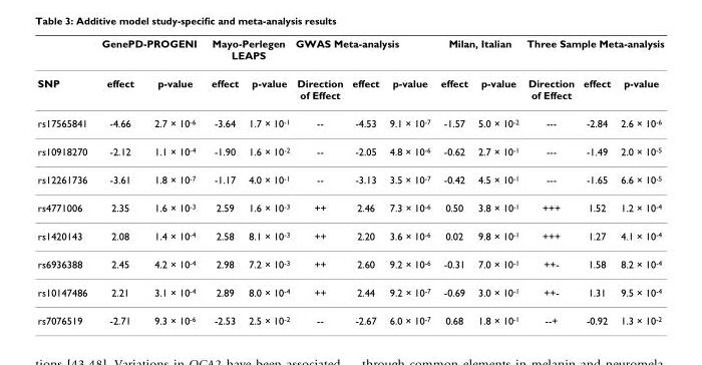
<table><thead><tr><td rowspan="2">SNP</td><td colspan="2">GenePD-PROGENI</td><td colspan="2">Mayo-Perlegen LEAPS</td><td colspan="3">GWAS Meta-analysis</td><td colspan="2">Milan, Italian</td><td colspan="3">Three Sample Meta-analysis</td></tr><tr><td>effect</td><td>p-value</td><td>effect</td><td>p-value</td><td>Direction of Effect</td><td>effect</td><td>p-value</td><td>effect</td><td>p-value</td><td>Direction of Effect</td><td>effect</td><td>p-value</td></tr></thead><tbody><tr><td>rs17565841</td><td>-4.66</td><td>2.7 × 10<sup>-6</sup></td><td>-3.64</td><td>1.7 × 10<sup>-1</sup></td><td>--</td><td>-4.53</td><td>9.1 × 10<sup>-7</sup></td><td>-1.57</td><td>5.0 × 10<sup>-2</sup></td><td>---</td><td>-2.84</td><td>2.6 × 10<sup>-6</sup></td></tr><tr><td>rs10918270</td><td>-2.12</td><td>1.1 × 10<sup>-4</sup></td><td>-1.90</td><td>1.6 × 10<sup>-2</sup></td><td>--</td><td>-2.05</td><td>4.8 × 10<sup>-6</sup></td><td>-0.62</td><td>2.7 × 10<sup>-1</sup></td><td>---</td><td>-1.49</td><td>2.0 × 10<sup>-5</sup></td></tr><tr><td>rs12261736</td><td>-3.61</td><td>1.8 × 10<sup>-7</sup></td><td>-1.17</td><td>4.0 × 10<sup>-1</sup></td><td>--</td><td>-3.13</td><td>3.5 × 10<sup>-7</sup></td><td>-0.42</td><td>4.5 × 10<sup>-1</sup></td><td>---</td><td>-1.65</td><td>6.6 × 10<sup>-5</sup></td></tr><tr><td>rs4771006</td><td>2.35</td><td>1.6 × 10<sup>-3</sup></td><td>2.59</td><td>1.6 × 10<sup>-3</sup></td><td>++</td><td>2.46</td><td>7.3 × 10<sup>-6</sup></td><td>0.50</td><td>3.8 × 10<sup>-1</sup></td><td>+++</td><td>1.52</td><td>1.2 × 10<sup>-4</sup></td></tr><tr><td>rs1420143</td><td>2.08</td><td>1.4 × 10<sup>-4</sup></td><td>2.58</td><td>8.1 × 10<sup>-3</sup></td><td>++</td><td>2.20</td><td>3.6 × 10<sup>-6</sup></td><td>0.02</td><td>9.8 × 10<sup>-1</sup></td><td>+++</td><td>1.27</td><td>4.1 × 10<sup>-4</sup></td></tr><tr><td>rs6936388</td><td>2.45</td><td>4.2 × 10<sup>-4</sup></td><td>2.98</td><td>7.2 × 10<sup>-3</sup></td><td>++</td><td>2.60</td><td>9.2 × 10<sup>-6</sup></td><td>-0.31</td><td>7.0 × 10<sup>-1</sup></td><td>++-</td><td>1.58</td><td>8.2 × 10<sup>-4</sup></td></tr><tr><td>rs10147486</td><td>2.21</td><td>3.1 × 10<sup>-4</sup></td><td>2.89</td><td>8.0 × 10<sup>-4</sup></td><td>++</td><td>2.44</td><td>9.2 × 10<sup>-7</sup></td><td>-0.69</td><td>3.0 × 10<sup>-1</sup></td><td>++-</td><td>1.31</td><td>9.5 × 10<sup>-4</sup></td></tr><tr><td>rs7076519</td><td>-2.71</td><td>9.3 × 10<sup>-6</sup></td><td>-2.53</td><td>2.5 × 10<sup>-2</sup></td><td>--</td><td>-2.67</td><td>6.0 × 10<sup>-7</sup></td><td>0.68</td><td>1.8 × 10<sup>-1</sup></td><td>--+</td><td>-0.92</td><td>1.3 × 10<sup>-2</sup></td></tr></tbody></table>